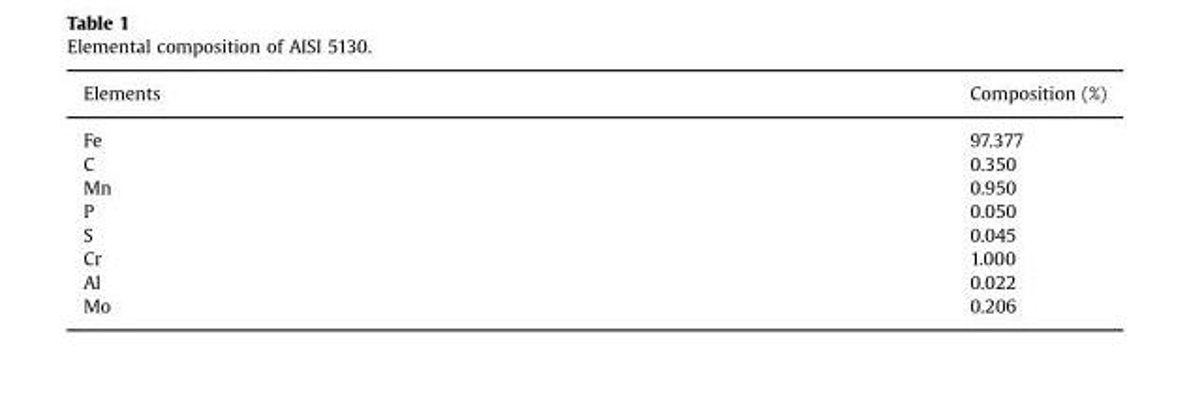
<table><thead><tr><td>Elements</td><td>Composition (%)</td></tr></thead><tbody><tr><td>Fe</td><td>97.377</td></tr><tr><td>C</td><td>0.350</td></tr><tr><td>Mn</td><td>0.950</td></tr><tr><td>P</td><td>0.050</td></tr><tr><td>S</td><td>0.045</td></tr><tr><td>Cr</td><td>1.000</td></tr><tr><td>Al</td><td>0.022</td></tr><tr><td>Mo</td><td>0.206</td></tr></tbody></table>